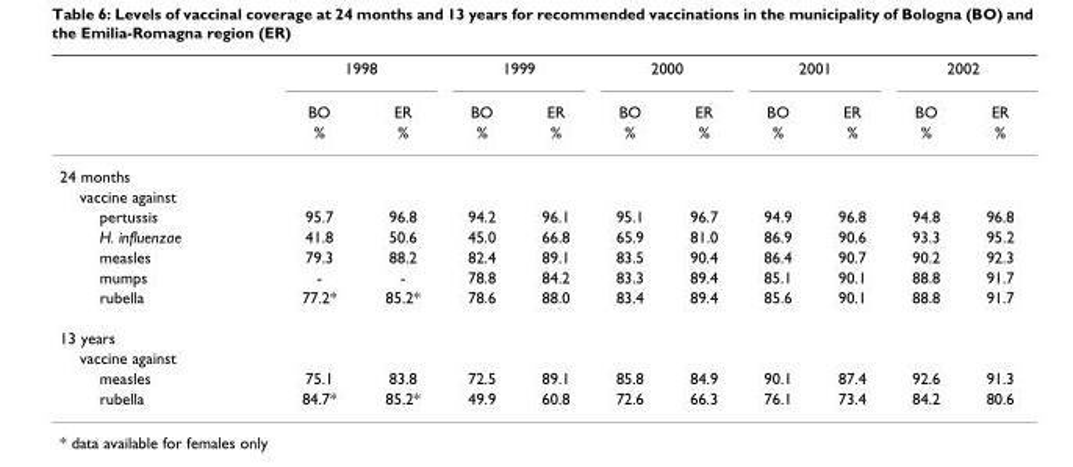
<table><thead><tr><td rowspan="3"></td><td colspan="2">1998</td><td colspan="2">1999</td><td colspan="2">2000</td><td colspan="2">2001</td><td colspan="2">2002</td></tr><tr><td rowspan="2">BO %</td><td rowspan="2">ER %</td><td rowspan="2">BO %</td><td rowspan="2">ER %</td><td rowspan="2">BO %</td><td rowspan="2">ER %</td><td rowspan="2">BO %</td><td rowspan="2">ER %</td><td rowspan="2">BO %</td><td rowspan="2">ER %</td></tr><tr></tr></thead><tbody><tr><td colspan="11">24 months</td></tr><tr><td colspan="11">vaccine against</td></tr><tr><td>pertussis</td><td>95.7</td><td>96.8</td><td>94.2</td><td>96.1</td><td>95.1</td><td>96.7</td><td>94.9</td><td>96.8</td><td>94.8</td><td>96.8</td></tr><tr><td>H. influenzae</td><td>41.8</td><td>50.6</td><td>45.0</td><td>66.8</td><td>65.9</td><td>81.0</td><td>86.9</td><td>90.6</td><td>93.3</td><td>95.2</td></tr><tr><td>measles</td><td>79.3</td><td>88.2</td><td>82.4</td><td>89.1</td><td>83.5</td><td>90.4</td><td>86.4</td><td>90.7</td><td>90.2</td><td>92.3</td></tr><tr><td>mumps</td><td>-</td><td>-</td><td>78.8</td><td>84.2</td><td>83.3</td><td>89.4</td><td>85.1</td><td>90.1</td><td>88.8</td><td>91.7</td></tr><tr><td>rubella</td><td>77.2*</td><td>85.2*</td><td>78.6</td><td>88.0</td><td>83.4</td><td>89.4</td><td>85.6</td><td>90.1</td><td>88.8</td><td>91.7</td></tr><tr><td colspan="11">13 years</td></tr><tr><td colspan="11">vaccine against</td></tr><tr><td>measles</td><td>75.1</td><td>83.8</td><td>72.5</td><td>89.1</td><td>85.8</td><td>84.9</td><td>90.1</td><td>87.4</td><td>92.6</td><td>91.3</td></tr><tr><td>rubella</td><td>84.7*</td><td>85.2*</td><td>49.9</td><td>60.8</td><td>72.6</td><td>66.3</td><td>76.1</td><td>73.4</td><td>84.2</td><td>80.6</td></tr></tbody></table>